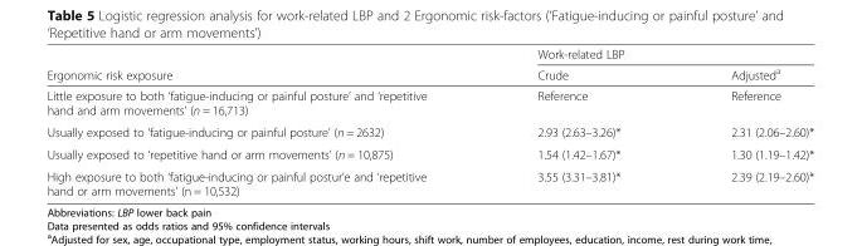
<table><thead><tr><td rowspan="2">Ergonomic risk exposure</td><td colspan="2">Work-related LBP</td></tr><tr><td>Crude</td><td>Adjusted<sup>a</sup></td></tr></thead><tbody><tr><td>Little exposure to both ‘fatigue-inducing or painful posture’ and ‘repetitive hand and arm movements’ (n = 16,713)</td><td>Reference</td><td>Reference</td></tr><tr><td>Usually exposed to ‘fatigue-inducing or painful posture’ (n = 2632)</td><td>2.93 (2.63–3.26)*</td><td>2.31 (2.06–2.60)*</td></tr><tr><td>Usually exposed to ‘repetitive hand or arm movements’ (n = 10,875)</td><td>1.54 (1.42–1.67)*</td><td>1.30 (1.19–1.42)*</td></tr><tr><td>High exposure to both ‘fatigue-inducing or painful postur’e and ‘repetitive hand or arm movements’ (n = 10,532)</td><td>3.55 (3.31–3.81)*</td><td>2.39 (2.19–2.60)*</td></tr></tbody></table>